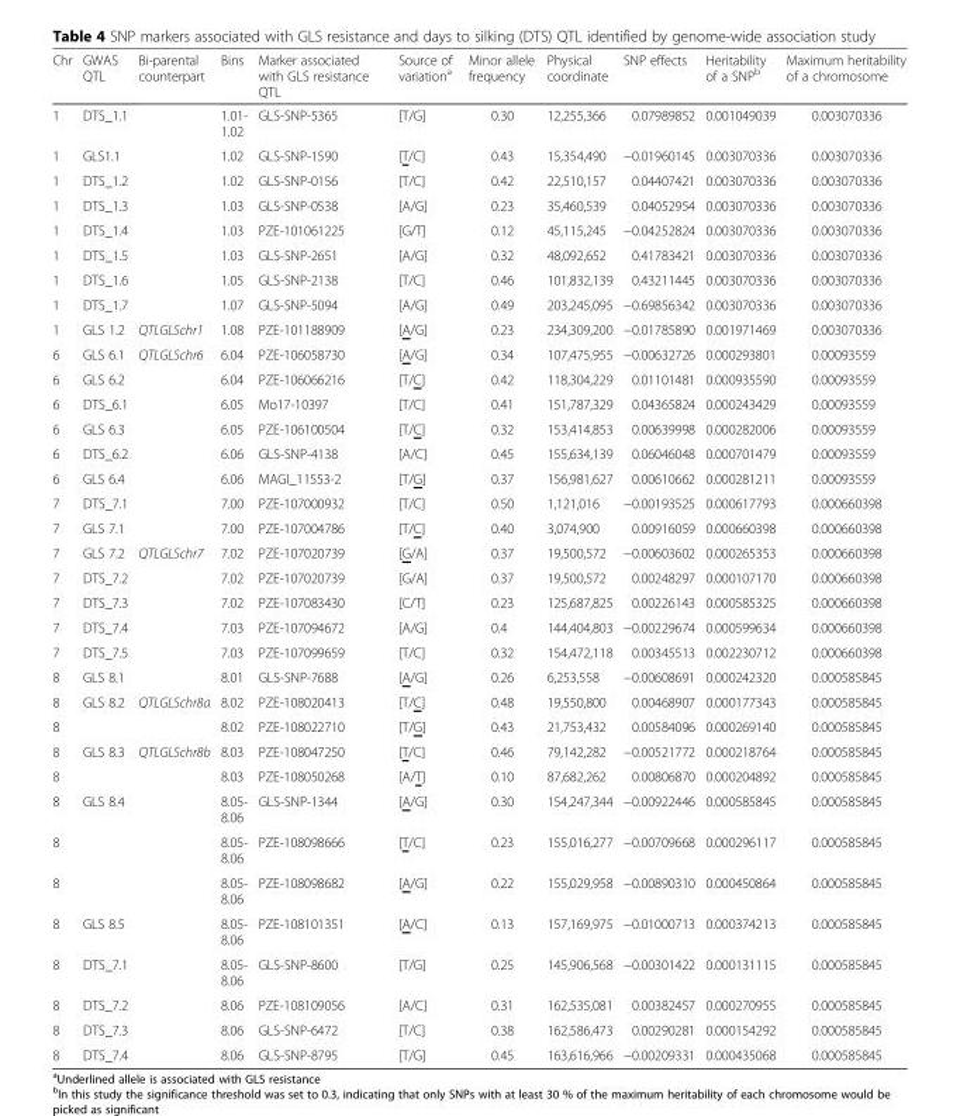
<table><thead><tr><td>Chr</td><td>GWAS QTL</td><td>Bi-parental counterpart</td><td>Bins</td><td>Marker associated with GLS resistance QTL</td><td>Source of variation<sup>a</sup></td><td>Minor allele frequency</td><td>Physical coordinate</td><td>SNP effects</td><td>Heritability of a SNP<sup>b</sup></td><td>Maximum heritability of a chromosome</td></tr></thead><tbody><tr><td>1</td><td>DTS_1.1</td><td></td><td>1.01- 1.02</td><td>GLS-SNP-5365</td><td>[T/G]</td><td>0.30</td><td>12,255,366</td><td>0.07989852</td><td>0.001049039</td><td>0.003070336</td></tr><tr><td>1</td><td>GLS1.1</td><td></td><td>1.02</td><td>GLS-SNP-1590</td><td>[T/C]</td><td>0.43</td><td>15,354,490</td><td>−0.01960145</td><td>0.003070336</td><td>0.003070336</td></tr><tr><td>1</td><td>DTS_1.2</td><td></td><td>1.02</td><td>GLS-SNP-0156</td><td>[T/C]</td><td>0.42</td><td>22,510,157</td><td>0.04407421</td><td>0.003070336</td><td>0.003070336</td></tr><tr><td>1</td><td>DTS_1.3</td><td></td><td>1.03</td><td>GLS-SNP-0538</td><td>[A/G]</td><td>0.23</td><td>35,460,539</td><td>0.04052954</td><td>0.003070336</td><td>0.003070336</td></tr><tr><td>1</td><td>DTS_1.4</td><td></td><td>1.03</td><td>PZE-101061225</td><td>[G/T]</td><td>0.12</td><td>45,115,245</td><td>−0.04252824</td><td>0.003070336</td><td>0.003070336</td></tr><tr><td>1</td><td>DTS_1.5</td><td></td><td>1.03</td><td>GLS-SNP-2651</td><td>[A/G]</td><td>0.32</td><td>48,092,652</td><td>0.41783421</td><td>0.003070336</td><td>0.003070336</td></tr><tr><td>1</td><td>DTS_1.6</td><td></td><td>1.05</td><td>GLS-SNP-2138</td><td>[T/C]</td><td>0.46</td><td>101,832,139</td><td>0.43211445</td><td>0.003070336</td><td>0.003070336</td></tr><tr><td>1</td><td>DTS_1.7</td><td></td><td>1.07</td><td>GLS-SNP-5094</td><td>[A/G]</td><td>0.49</td><td>203,245,095</td><td>−0.69856342</td><td>0.003070336</td><td>0.003070336</td></tr><tr><td>1</td><td>GLS 1.2</td><td>QTLGLSchr1</td><td>1.08</td><td>PZE-101188909</td><td>[A/G]</td><td>0.23</td><td>234,309,200</td><td>−0.01785890</td><td>0.001971469</td><td>0.003070336</td></tr><tr><td>6</td><td>GLS 6.1</td><td>QTLGLSchr6</td><td>6.04</td><td>PZE-106058730</td><td>[A/G]</td><td>0.34</td><td>107,475,955</td><td>−0.00632726</td><td>0.000293801</td><td>0.00093559</td></tr><tr><td>6</td><td>GLS 6.2</td><td></td><td>6.04</td><td>PZE-106066216</td><td>[T/C]</td><td>0.42</td><td>118,304,229</td><td>0.01101481</td><td>0.000935590</td><td>0.00093559</td></tr><tr><td>6</td><td>DTS_6.1</td><td></td><td>6.05</td><td>Mo17-10397</td><td>[T/C]</td><td>0.41</td><td>151,787,329</td><td>0.04365824</td><td>0.000243429</td><td>0.00093559</td></tr><tr><td>6</td><td>GLS 6.3</td><td></td><td>6.05</td><td>PZE-106100504</td><td>[T/C]</td><td>0.32</td><td>153,414,853</td><td>0.00639998</td><td>0.000282006</td><td>0.00093559</td></tr><tr><td>6</td><td>DTS_6.2</td><td></td><td>6.06</td><td>GLS-SNP-4138</td><td>[A/C]</td><td>0.45</td><td>155,634,139</td><td>0.06046048</td><td>0.000701479</td><td>0.00093559</td></tr><tr><td>6</td><td>GLS 6.4</td><td></td><td>6.06</td><td>MAGI_11553-2</td><td>[T/G]</td><td>0.37</td><td>156,981,627</td><td>0.00610662</td><td>0.000281211</td><td>0.00093559</td></tr><tr><td>7</td><td>DTS_7.1</td><td></td><td>7.00</td><td>PZE-107000932</td><td>[T/C]</td><td>0.50</td><td>1,121,016</td><td>−0.00193525</td><td>0.000617793</td><td>0.000660398</td></tr><tr><td>7</td><td>GLS 7.1</td><td></td><td>7.00</td><td>PZE-107004786</td><td>[T/C]</td><td>0.40</td><td>3,074,900</td><td>0.00916059</td><td>0.000660398</td><td>0.000660398</td></tr><tr><td>7</td><td>GLS 7.2</td><td>QTLGLSchr7</td><td>7.02</td><td>PZE-107020739</td><td>[G/A]</td><td>0.37</td><td>19,500,572</td><td>−0.00603602</td><td>0.000265353</td><td>0.000660398</td></tr><tr><td>7</td><td>DTS_7.2</td><td></td><td>7.02</td><td>PZE-107020739</td><td>[G/A]</td><td>0.37</td><td>19,500,572</td><td>0.00248297</td><td>0.000107170</td><td>0.000660398</td></tr><tr><td>7</td><td>DTS_7.3</td><td></td><td>7.02</td><td>PZE-107083430</td><td>[C/T]</td><td>0.23</td><td>125,687,825</td><td>0.00226143</td><td>0.000585325</td><td>0.000660398</td></tr><tr><td>7</td><td>DTS_7.4</td><td></td><td>7.03</td><td>PZE-107094672</td><td>[A/G]</td><td>0.4</td><td>144,404,803</td><td>−0.00229674</td><td>0.000599634</td><td>0.000660398</td></tr><tr><td>7</td><td>DTS_7.5</td><td></td><td>7.03</td><td>PZE-107099659</td><td>[T/C]</td><td>0.32</td><td>154,472,118</td><td>0.00345513</td><td>0.002230712</td><td>0.000660398</td></tr><tr><td>8</td><td>GLS 8.1</td><td></td><td>8.01</td><td>GLS-SNP-7688</td><td>[A/G]</td><td>0.26</td><td>6,253,558</td><td>−0.00608691</td><td>0.000242320</td><td>0.000585845</td></tr><tr><td>8</td><td rowspan="2">GLS 8.2</td><td rowspan="2">QTLGLSchr8a</td><td>8.02</td><td>PZE-108020413</td><td>[T/C]</td><td>0.48</td><td>19,550,800</td><td>0.00468907</td><td>0.000177343</td><td>0.000585845</td></tr><tr><td>8</td><td>8.02</td><td>PZE-108022710</td><td>[T/G]</td><td>0.43</td><td>21,753,432</td><td>0.00584096</td><td>0.000269140</td><td>0.000585845</td></tr><tr><td>8</td><td rowspan="2">GLS 8.3</td><td rowspan="2">QTLGLSchr8b</td><td>8.03</td><td>PZE-108047250</td><td>[T/C]</td><td>0.46</td><td>79,142,282</td><td>−0.00521772</td><td>0.000218764</td><td>0.000585845</td></tr><tr><td>8</td><td>8.03</td><td>PZE-108050268</td><td>[A/T]</td><td>0.10</td><td>87,682,262</td><td>0.00806870</td><td>0.000204892</td><td>0.000585845</td></tr><tr><td>8</td><td rowspan="3">GLS 8.4</td><td></td><td>8.05- 8.06</td><td>GLS-SNP-1344</td><td>[A/G]</td><td>0.30</td><td>154,247,344</td><td>−0.00922446</td><td>0.000585845</td><td>0.000585845</td></tr><tr><td>8</td><td></td><td>8.05- 8.06</td><td>PZE-108098666</td><td>[T/C]</td><td>0.23</td><td>155,016,277</td><td>−0.00709668</td><td>0.000296117</td><td>0.000585845</td></tr><tr><td>8</td><td></td><td>8.05- 8.06</td><td>PZE-108098682</td><td>[A/G]</td><td>0.22</td><td>155,029,958</td><td>−0.00890310</td><td>0.000450864</td><td>0.000585845</td></tr><tr><td>8</td><td>GLS 8.5</td><td></td><td>8.05- 8.06</td><td>PZE-108101351</td><td>[A/C]</td><td>0.13</td><td>157,169,975</td><td>−0.01000713</td><td>0.000374213</td><td>0.000585845</td></tr><tr><td>8</td><td>DTS_7.1</td><td></td><td>8.05- 8.06</td><td>GLS-SNP-8600</td><td>[T/G]</td><td>0.25</td><td>145,906,568</td><td>−0.00301422</td><td>0.000131115</td><td>0.000585845</td></tr><tr><td>8</td><td>DTS_7.2</td><td></td><td>8.06</td><td>PZE-108109056</td><td>[A/C]</td><td>0.31</td><td>162,535,081</td><td>0.00382457</td><td>0.000270955</td><td>0.000585845</td></tr><tr><td>8</td><td>DTS_7.3</td><td></td><td>8.06</td><td>GLS-SNP-6472</td><td>[T/C]</td><td>0.38</td><td>162,586,473</td><td>0.00290281</td><td>0.000154292</td><td>0.000585845</td></tr><tr><td>8</td><td>DTS_7.4</td><td></td><td>8.06</td><td>GLS-SNP-8795</td><td>[T/G]</td><td>0.45</td><td>163,616,966</td><td>−0.00209331</td><td>0.000435068</td><td>0.000585845</td></tr></tbody></table>